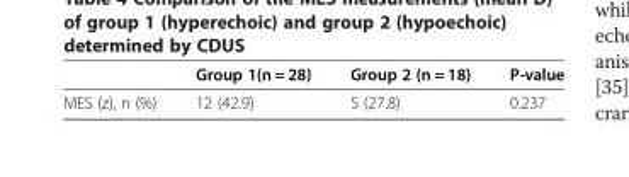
<table><thead><tr><td></td><td>Group 1(n = 28)</td><td>Group 2 (n = 18)</td><td>P-value</td></tr></thead><tbody><tr><td>MES (z), n (%)</td><td>12 (42.9)</td><td>5 (27.8)</td><td>0.237</td></tr></tbody></table>